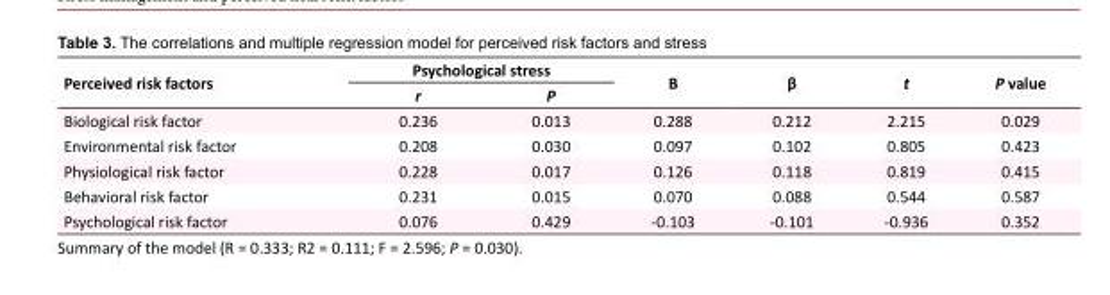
<table><tbody><tr><td rowspan="2">Perceived risk factors</td><td colspan="2">Psychological stress</td><td rowspan="2">B</td><td rowspan="2">β</td><td rowspan="2">t</td><td rowspan="2">P value</td></tr><tr><td>r</td><td>P</td></tr><tr><td>Biological risk factor</td><td>0.236</td><td>0.013</td><td>0.288</td><td>0.212</td><td>2.215</td><td>0.029</td></tr><tr><td>Environmental risk factor</td><td>0.208</td><td>0.030</td><td>0.097</td><td>0.102</td><td>0.805</td><td>0.423</td></tr><tr><td>Physiological risk factor</td><td>0.228</td><td>0.017</td><td>0.126</td><td>0.118</td><td>0.819</td><td>0.415</td></tr><tr><td>Behavioral risk factor</td><td>0.231</td><td>0.015</td><td>0.070</td><td>0.088</td><td>0.544</td><td>0.587</td></tr><tr><td>Psychological risk factor</td><td>0.076</td><td>0.429</td><td>-0.103</td><td>-0.101</td><td>-0.936</td><td>0.352</td></tr></tbody></table>